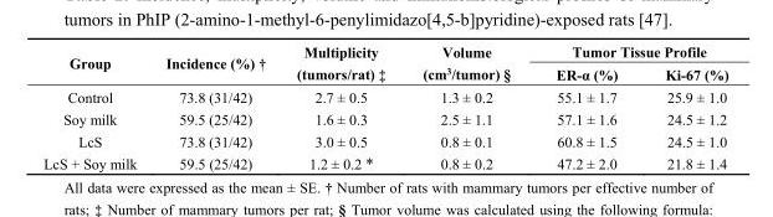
<table><thead><tr><td rowspan="2">Group</td><td rowspan="2">Incidence (%) †</td><td rowspan="2">Multiplicity (tumors/rat) ‡</td><td rowspan="2">Volume (cm<sup>3</sup>/tumor) §</td><td colspan="2">Tumor Tissue Profile</td></tr><tr><td>ER-α (%)</td><td>Ki-67 (%)</td></tr></thead><tbody><tr><td>Control</td><td>73.8 (31/42)</td><td>2.7 ± 0.5</td><td>1.3 ± 0.2</td><td>55.1 ± 1.7</td><td>25.9 ± 1.0</td></tr><tr><td>Soy milk</td><td>59.5 (25/42)</td><td>1.6 ± 0.3</td><td>2.5 ± 1.1</td><td>57.1 ± 1.6</td><td>24.5 ± 1.2</td></tr><tr><td>LcS</td><td>73.8 (31/42)</td><td>3.0 ± 0.5</td><td>0.8 ± 0.1</td><td>60.8 ± 1.5</td><td>24.5 ± 1.0</td></tr><tr><td>LcS + Soy milk</td><td>59.5 (25/42)</td><td>1.2 ± 0.2 *</td><td>0.8 ± 0.2</td><td>47.2 ± 2.0</td><td>21.8 ± 1.4</td></tr></tbody></table>